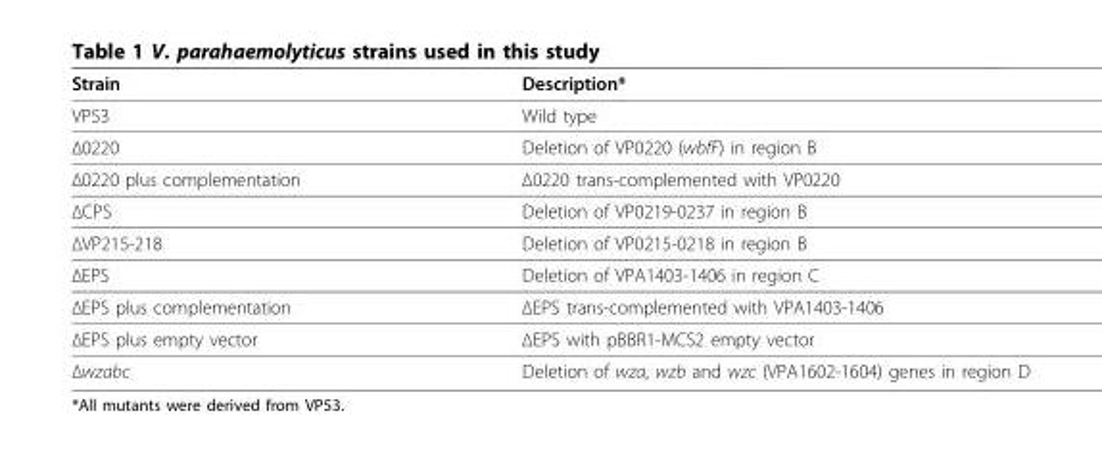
<table><thead><tr><td>Strain</td><td>Description*</td></tr></thead><tbody><tr><td>VP53</td><td>Wild type</td></tr><tr><td>Δ0220</td><td>Deletion of VP0220 (wbfF) in region B</td></tr><tr><td>Δ0220 plus complementation</td><td>Δ0220 trans-complemented with VP0220</td></tr><tr><td>ΔCPS</td><td>Deletion of VP0219-0237 in region B</td></tr><tr><td>ΔVP215-218</td><td>Deletion of VP0215-0218 in region B</td></tr><tr><td>ΔEPS</td><td>Deletion of VPA1403-1406 in region C</td></tr><tr><td>ΔEPS plus complementation</td><td>ΔEPS trans-complemented with VPA1403-1406</td></tr><tr><td>ΔEPS plus empty vector</td><td>ΔEPS with pBBR1-MCS2 empty vector</td></tr><tr><td>Δwzabc</td><td>Deletion of wza, wzb and wzc (VPA1602-1604) genes in region D</td></tr></tbody></table>